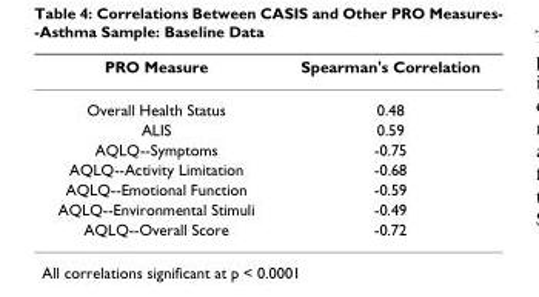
<table><thead><tr><td>PRO Measure</td><td>Spearman&#x27;s Correlation</td></tr></thead><tbody><tr><td>Overall Health Status</td><td>0.48</td></tr><tr><td>ALIS</td><td>0.59</td></tr><tr><td>AQLQ--Symptoms</td><td>-0.75</td></tr><tr><td>AQLQ--Activity Limitation</td><td>-0.68</td></tr><tr><td>AQLQ--Emotional Function</td><td>-0.59</td></tr><tr><td>AQLQ--Environmental Stimuli</td><td>-0.49</td></tr><tr><td>AQLQ--Overall Score</td><td>-0.72</td></tr></tbody></table>